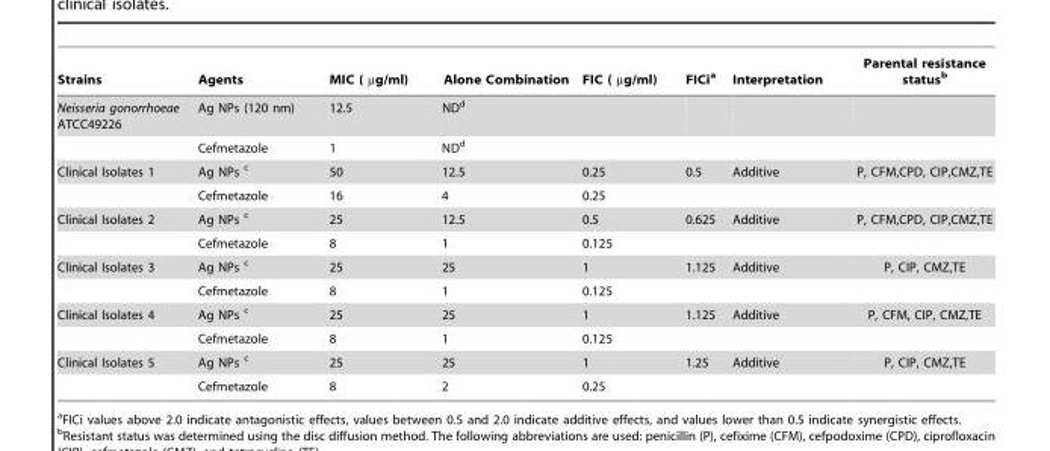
<table><thead><tr><td rowspan="2">Strains Neisseria gonorrhoeae ATCC49226</td><td rowspan="2">Agents Ag NPs (120 nm)</td><td colspan="2">MIC ( µg/ml) Alone Combination</td><td rowspan="2">FIC ( µg/ml)</td><td rowspan="2">FICi<sup>a</sup></td><td rowspan="2">Interpretation</td><td rowspan="2">Parental resistance status<sup>b</sup></td></tr><tr><td>12.5</td><td>ND<sup>d</sup></td></tr></thead><tbody><tr><td></td><td>Cefmetazole</td><td>1</td><td>ND<sup>d</sup></td><td></td><td></td><td></td><td></td></tr><tr><td rowspan="2">Clinical Isolates 1</td><td>Ag NPs c</td><td>50</td><td>12.5</td><td>0.25</td><td>0.5</td><td>Additive</td><td>P, CFM,CPD, CIP,CMZ,TE</td></tr><tr><td>Cefmetazole</td><td>16</td><td>4</td><td>0.25</td><td></td><td></td><td></td></tr><tr><td rowspan="2">Clinical Isolates 2</td><td>Ag NPs c</td><td>25</td><td>12.5</td><td>0.5</td><td>0.625</td><td>Additive</td><td>P, CFM,CPD, CIP,CMZ,TE</td></tr><tr><td>Cefmetazole</td><td>8</td><td>1</td><td>0.125</td><td></td><td></td><td></td></tr><tr><td rowspan="2">Clinical Isolates 3</td><td>Ag NPs c</td><td>25</td><td>25</td><td>1</td><td>1.125</td><td>Additive</td><td>P, CIP, CMZ,TE</td></tr><tr><td>Cefmetazole</td><td>8</td><td>1</td><td>0.125</td><td></td><td></td><td></td></tr><tr><td rowspan="2">Clinical Isolates 4</td><td>Ag NPs c</td><td>25</td><td>25</td><td>1</td><td>1.125</td><td>Additive</td><td>P, CFM, CIP, CMZ,TE</td></tr><tr><td>Cefmetazole</td><td>8</td><td>1</td><td>0.125</td><td></td><td></td><td></td></tr><tr><td rowspan="2">Clinical Isolates 5</td><td>Ag NPs c</td><td>25</td><td>25</td><td>1</td><td>1.25</td><td>Additive</td><td>P, CIP, CMZ,TE</td></tr><tr><td>Cefmetazole</td><td>8</td><td>2</td><td>0.25</td><td></td><td></td><td></td></tr></tbody></table>